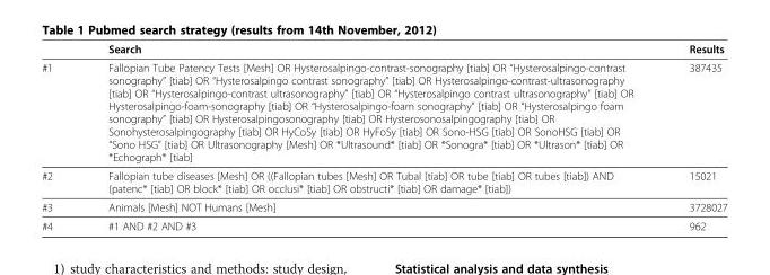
<table><thead><tr><td></td><td>Search</td><td>Results</td></tr></thead><tbody><tr><td>#1</td><td>Fallopian Tube Patency Tests [Mesh] OR Hysterosalpingo-contrast-sonography [tiab] OR “Hysterosalpingo-contrast sonography” [tiab] OR “Hysterosalpingo contrast sonography” [tiab] OR Hysterosalpingo-contrast-ultrasonography [tiab] OR “Hysterosalpingo-contrast ultrasonography” [tiab] OR “Hysterosalpingo contrast ultrasonography” [tiab] OR Hysterosalpingo-foam-sonography [tiab] OR “Hysterosalpingo-foam sonography” [tiab] OR “Hysterosalpingo foam sonography” [tiab] OR Hysterosalpingosonography [tiab] OR Hysterosonosalpingography [tiab] OR Sonohysterosalpingography [tiab] OR HyCoSy [tiab] OR HyFoSy [tiab] OR Sono-HSG [tiab] OR SonoHSG [tiab] OR “Sono HSG” [tiab] OR Ultrasonography [Mesh] OR *Ultrasound* [tiab] OR *Sonogra* [tiab] OR *Ultrason* [tiab] OR *Echograph* [tiab]</td><td>387435</td></tr><tr><td>#2</td><td>Fallopian tube diseases [Mesh] OR ((Fallopian tubes [Mesh] OR Tubal [tiab] OR tube [tiab] OR tubes [tiab]) AND (patenc* [tiab] OR block* [tiab] OR occlusi* [tiab] OR obstructi* [tiab] OR damage* [tiab])</td><td>15021</td></tr><tr><td>#3</td><td>Animals [Mesh] NOT Humans [Mesh]</td><td>3728027</td></tr><tr><td>#4</td><td>#1 AND #2 AND #3</td><td>962</td></tr></tbody></table>